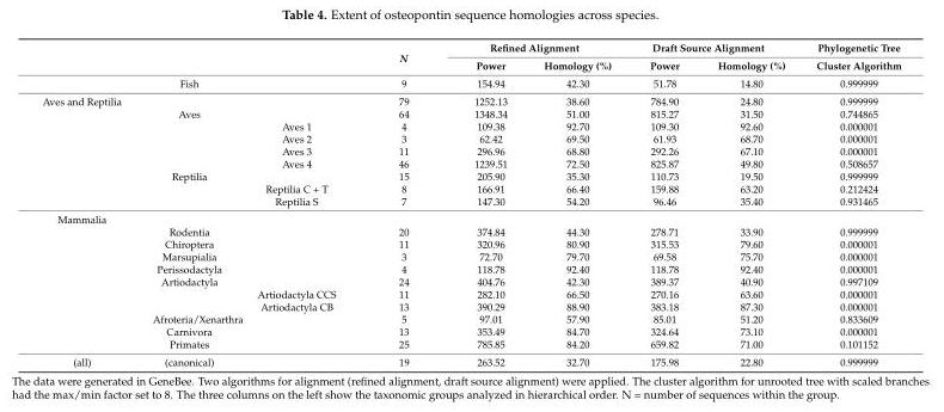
<table><thead><tr><td rowspan="2"></td><td rowspan="2"></td><td rowspan="2"></td><td rowspan="2">N</td><td colspan="2">Refined Alignment</td><td colspan="2">Draft Source Alignment</td><td rowspan="2">Phylogenetic Tree Cluster Algorithm</td></tr><tr><td>Power</td><td>Homology (%)</td><td>Power</td><td>Homology (%)</td></tr></thead><tbody><tr><td></td><td>Fish</td><td></td><td>9</td><td>154.94</td><td>42.30</td><td>51.78</td><td>14.80</td><td>0.999999</td></tr><tr><td rowspan="9">Aves and Reptilia</td><td></td><td></td><td>79</td><td>1252.13</td><td>38.60</td><td>784.90</td><td>24.80</td><td>0.999999</td></tr><tr><td>Aves</td><td></td><td>64</td><td>1348.34</td><td>51.00</td><td>815.27</td><td>31.50</td><td>0.744865</td></tr><tr><td></td><td>Aves 1</td><td>4</td><td>109.38</td><td>92.70</td><td>109.30</td><td>92.60</td><td>0.000001</td></tr><tr><td></td><td>Aves 2</td><td>3</td><td>62.42</td><td>69.50</td><td>61.93</td><td>68.70</td><td>0.000001</td></tr><tr><td></td><td>Aves 3</td><td>11</td><td>296.96</td><td>68.80</td><td>292.26</td><td>67.10</td><td>0.000001</td></tr><tr><td></td><td>Aves 4</td><td>46</td><td>1239.51</td><td>72.50</td><td>825.87</td><td>49.80</td><td>0.508657</td></tr><tr><td>Reptilia</td><td></td><td>15</td><td>205.90</td><td>35.30</td><td>110.73</td><td>19.50</td><td>0.999999</td></tr><tr><td></td><td>Reptilia C + T</td><td>8</td><td>166.91</td><td>66.40</td><td>159.88</td><td>63.20</td><td>0.212424</td></tr><tr><td></td><td>Reptilia S</td><td>7</td><td>147.30</td><td>54.20</td><td>96.46</td><td>35.40</td><td>0.931465</td></tr><tr><td colspan="9">Mammalia</td></tr><tr><td></td><td>Rodentia</td><td></td><td>20</td><td>374.84</td><td>44.30</td><td>278.71</td><td>33.90</td><td>0.999999</td></tr><tr><td></td><td>Chiroptera</td><td></td><td>11</td><td>320.96</td><td>80.90</td><td>315.53</td><td>79.60</td><td>0.000001</td></tr><tr><td></td><td>Marsupialia</td><td></td><td>3</td><td>72.70</td><td>79.70</td><td>69.58</td><td>75.70</td><td>0.000001</td></tr><tr><td></td><td>Perissodactyla</td><td></td><td>4</td><td>118.78</td><td>92.40</td><td>118.78</td><td>92.40</td><td>0.000001</td></tr><tr><td></td><td>Artiodactyla</td><td></td><td>24</td><td>404.76</td><td>42.30</td><td>389.37</td><td>40.90</td><td>0.997109</td></tr><tr><td></td><td></td><td>Artiodactyla CCS</td><td>11</td><td>282.10</td><td>66.50</td><td>270.16</td><td>63.60</td><td>0.000001</td></tr><tr><td></td><td></td><td>Artiodactyla CB</td><td>13</td><td>390.29</td><td>88.90</td><td>383.18</td><td>87.30</td><td>0.000001</td></tr><tr><td></td><td>Afroteria/Xenarthra</td><td></td><td>5</td><td>97.01</td><td>57.90</td><td>85.01</td><td>51.20</td><td>0.833609</td></tr><tr><td></td><td>Carnivora</td><td></td><td>13</td><td>353.49</td><td>84.70</td><td>324.64</td><td>73.10</td><td>0.000001</td></tr><tr><td></td><td>Primates</td><td></td><td>25</td><td>785.85</td><td>84.20</td><td>659.82</td><td>71.00</td><td>0.101152</td></tr><tr><td>(all)</td><td>(canonical)</td><td></td><td>19</td><td>263.52</td><td>32.70</td><td>175.98</td><td>22.80</td><td>0.999999</td></tr></tbody></table>